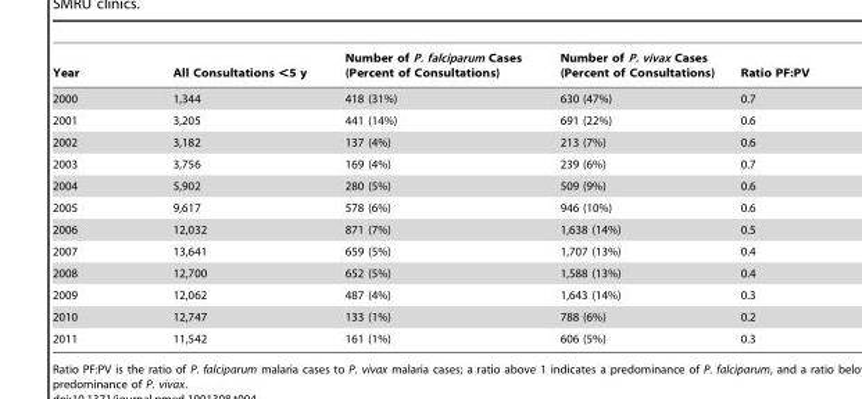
<table><thead><tr><td>Year</td><td>All Consultations &lt;5 y</td><td>Number of P. falciparum Cases (Percent of Consultations)</td><td>Number of P. vivax Cases (Percent of Consultations)</td><td>Ratio PF:PV</td></tr></thead><tbody><tr><td>2000</td><td>1,344</td><td>418 (31%)</td><td>630 (47%)</td><td>0.7</td></tr><tr><td>2001</td><td>3,205</td><td>441 (14%)</td><td>691 (22%)</td><td>0.6</td></tr><tr><td>2002</td><td>3,182</td><td>137 (4%)</td><td>213 (7%)</td><td>0.6</td></tr><tr><td>2003</td><td>3,756</td><td>169 (4%)</td><td>239 (6%)</td><td>0.7</td></tr><tr><td>2004</td><td>5,902</td><td>280 (5%)</td><td>509 (9%)</td><td>0.6</td></tr><tr><td>2005</td><td>9,617</td><td>578 (6%)</td><td>946 (10%)</td><td>0.6</td></tr><tr><td>2006</td><td>12,032</td><td>871 (7%)</td><td>1,638 (14%)</td><td>0.5</td></tr><tr><td>2007</td><td>13,641</td><td>659 (5%)</td><td>1,707 (13%)</td><td>0.4</td></tr><tr><td>2008</td><td>12,700</td><td>652 (5%)</td><td>1,588 (13%)</td><td>0.4</td></tr><tr><td>2009</td><td>12,062</td><td>487 (4%)</td><td>1,643 (14%)</td><td>0.3</td></tr><tr><td>2010</td><td>12,747</td><td>133 (1%)</td><td>788 (6%)</td><td>0.2</td></tr><tr><td>2011</td><td>11,542</td><td>161 (1%)</td><td>606 (5%)</td><td>0.3</td></tr></tbody></table>